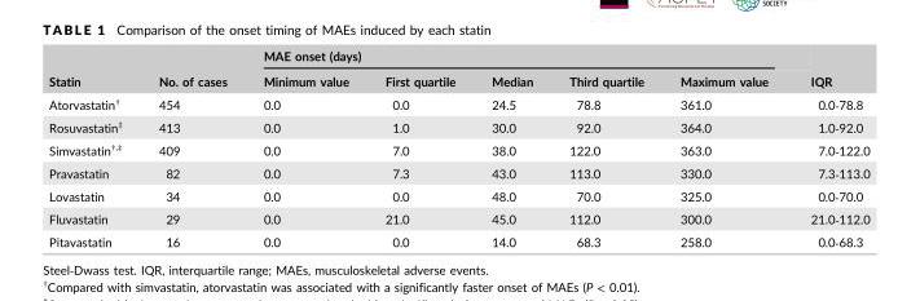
<table><thead><tr><td rowspan="2">Statin</td><td rowspan="2">No. of cases</td><td colspan="5">MAE onset (days)</td><td rowspan="2">IQR</td></tr><tr><td>Minimum value</td><td>First quartile</td><td>Median</td><td>Third quartile</td><td>Maximum value</td></tr></thead><tbody><tr><td>Atorvastatin†</td><td>454</td><td>0.0</td><td>0.0</td><td>24.5</td><td>78.8</td><td>361.0</td><td>0.0‐78.8</td></tr><tr><td>Rosuvastatin‡</td><td>413</td><td>0.0</td><td>1.0</td><td>30.0</td><td>92.0</td><td>364.0</td><td>1.0‐92.0</td></tr><tr><td>Simvastatin†,‡</td><td>409</td><td>0.0</td><td>7.0</td><td>38.0</td><td>122.0</td><td>363.0</td><td>7.0‐122.0</td></tr><tr><td>Pravastatin</td><td>82</td><td>0.0</td><td>7.3</td><td>43.0</td><td>113.0</td><td>330.0</td><td>7.3‐113.0</td></tr><tr><td>Lovastatin</td><td>34</td><td>0.0</td><td>0.0</td><td>48.0</td><td>70.0</td><td>325.0</td><td>0.0‐70.0</td></tr><tr><td>Fluvastatin</td><td>29</td><td>0.0</td><td>21.0</td><td>45.0</td><td>112.0</td><td>300.0</td><td>21.0‐112.0</td></tr><tr><td>Pitavastatin</td><td>16</td><td>0.0</td><td>0.0</td><td>14.0</td><td>68.3</td><td>258.0</td><td>0.0‐68.3</td></tr></tbody></table>